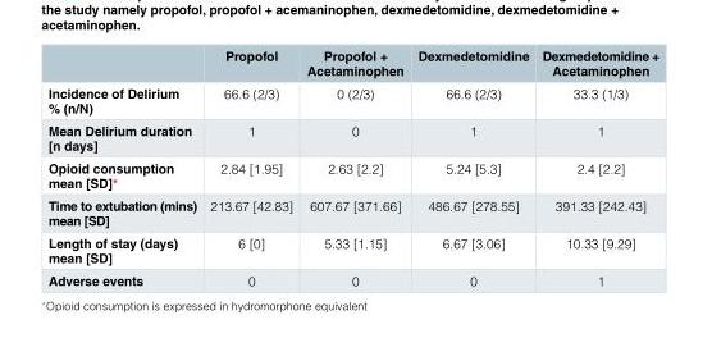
<table><thead><tr><td></td><td>Propofol</td><td>Propofol + Acetaminophen</td><td>Dexmedetomidine</td><td>Dexmedetomidine + Acetaminophen</td></tr></thead><tbody><tr><td>Incidence of Delirium % (n/N)</td><td>66.6 (2/3)</td><td>0 (2/3)</td><td>66.6 (2/3)</td><td>33.3 (1/3)</td></tr><tr><td>Mean Delirium duration [n days]</td><td>1</td><td>0</td><td>1</td><td>1</td></tr><tr><td>Opioid consumption mean [SD]*</td><td>2.84 [1.95]</td><td>2.63 [2.2]</td><td>5.24 [5.3]</td><td>2.4 [2.2]</td></tr><tr><td>Time to extubation (mins) mean [SD]</td><td>213.67 [42.83]</td><td>607.67 [371.66]</td><td>486.67 [278.55]</td><td>391.33 [242.43]</td></tr><tr><td>Length of stay (days) mean [SD]</td><td>6 [0]</td><td>5.33 [1.15]</td><td>6.67 [3.06]</td><td>10.33 [9.29]</td></tr><tr><td>Adverse events</td><td>0</td><td>0</td><td>0</td><td>1</td></tr></tbody></table>